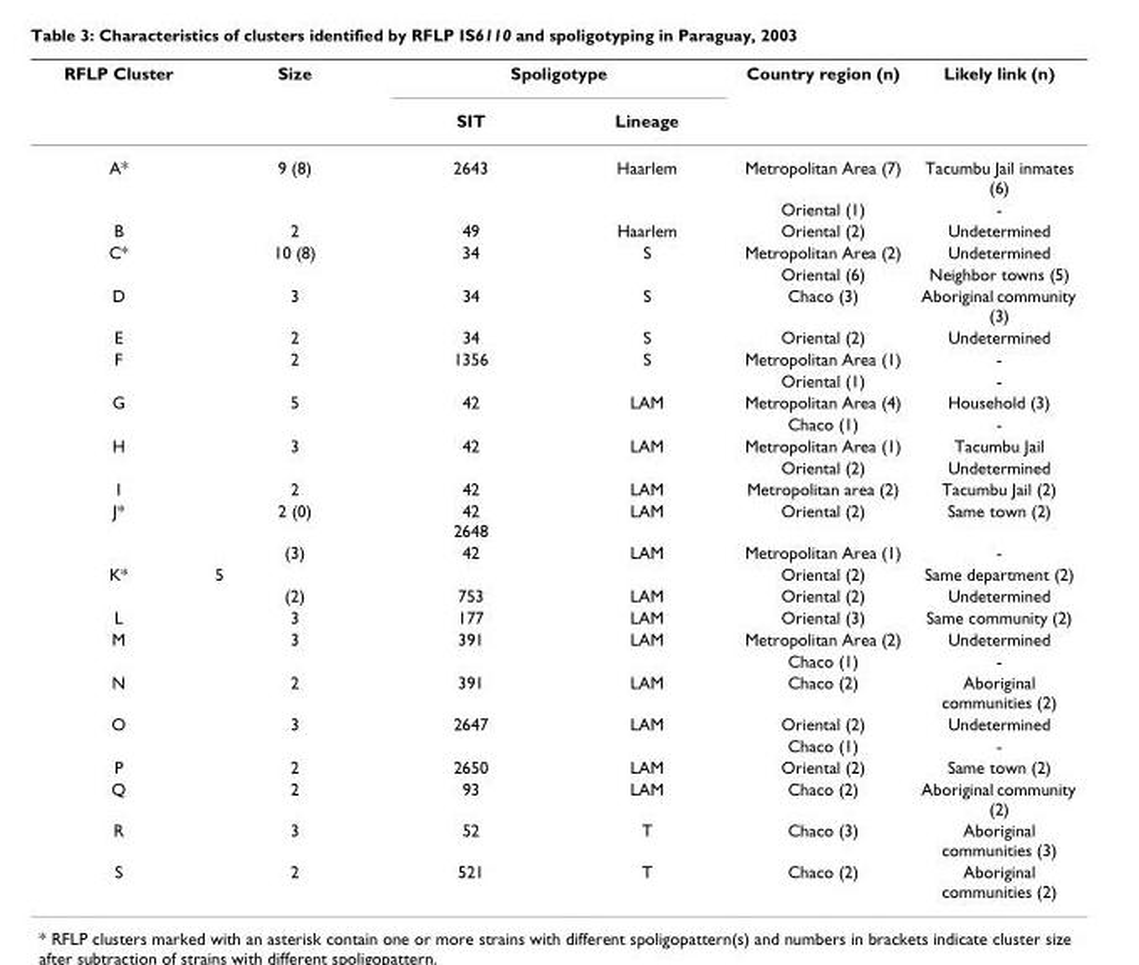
<table><thead><tr><td rowspan="2">RFLP Cluster</td><td rowspan="2">Size</td><td colspan="2">Spoligotype</td><td rowspan="2">Country region (n)</td><td rowspan="2">Likely link (n)</td></tr><tr><td>SIT</td><td>Lineage</td></tr></thead><tbody><tr><td rowspan="2">A*</td><td>9 (8)</td><td>2643</td><td>Haarlem</td><td>Metropolitan Area (7)</td><td>Tacumbu Jail inmates (6)</td></tr><tr><td></td><td></td><td></td><td>Oriental (1)</td><td>-</td></tr><tr><td>B</td><td>2</td><td>49</td><td>Haarlem</td><td>Oriental (2)</td><td>Undetermined</td></tr><tr><td rowspan="2">C*</td><td>10 (8)</td><td>34</td><td>S</td><td>Metropolitan Area (2)</td><td>Undetermined</td></tr><tr><td></td><td></td><td></td><td>Oriental (6)</td><td>Neighbor towns (5)</td></tr><tr><td>D</td><td>3</td><td>34</td><td>S</td><td>Chaco (3)</td><td>Aboriginal community (3)</td></tr><tr><td>E</td><td>2</td><td>34</td><td>S</td><td>Oriental (2)</td><td>Undetermined</td></tr><tr><td rowspan="2">F</td><td>2</td><td>1356</td><td>S</td><td>Metropolitan Area (1)</td><td>-</td></tr><tr><td></td><td></td><td></td><td>Oriental (1)</td><td>-</td></tr><tr><td rowspan="2">G</td><td>5</td><td>42</td><td>LAM</td><td>Metropolitan Area (4)</td><td>Household (3)</td></tr><tr><td></td><td></td><td></td><td>Chaco (1)</td><td>-</td></tr><tr><td rowspan="2">H</td><td>3</td><td>42</td><td>LAM</td><td>Metropolitan Area (1)</td><td>Tacumbu Jail</td></tr><tr><td></td><td></td><td></td><td>Oriental (2)</td><td>Undetermined</td></tr><tr><td>I</td><td>2</td><td>42</td><td>LAM</td><td>Metropolitan area (2)</td><td>Tacumbu Jail (2)</td></tr><tr><td rowspan="2">J*</td><td>2 (0)</td><td>42 2648</td><td>LAM</td><td>Oriental (2)</td><td>Same town (2)</td></tr><tr><td>(3)</td><td>42</td><td>LAM</td><td>Metropolitan Area (1)</td><td>-</td></tr><tr><td rowspan="2">K*</td><td>5</td><td></td><td></td><td>Oriental (2)</td><td>Same department (2)</td></tr><tr><td>(2)</td><td>753</td><td>LAM</td><td>Oriental (2)</td><td>Undetermined</td></tr><tr><td>L</td><td>3</td><td>177</td><td>LAM</td><td>Oriental (3)</td><td>Same community (2)</td></tr><tr><td rowspan="2">M</td><td>3</td><td>391</td><td>LAM</td><td>Metropolitan Area (2)</td><td>Undetermined</td></tr><tr><td></td><td></td><td></td><td>Chaco (1)</td><td>-</td></tr><tr><td>N</td><td>2</td><td>391</td><td>LAM</td><td>Chaco (2)</td><td>Aboriginal communities (2)</td></tr><tr><td rowspan="2">O</td><td>3</td><td>2647</td><td>LAM</td><td>Oriental (2)</td><td>Undetermined</td></tr><tr><td></td><td></td><td></td><td>Chaco (1)</td><td>-</td></tr><tr><td>P</td><td>2</td><td>2650</td><td>LAM</td><td>Oriental (2)</td><td>Same town (2)</td></tr><tr><td>Q</td><td>2</td><td>93</td><td>LAM</td><td>Chaco (2)</td><td>Aboriginal community (2)</td></tr><tr><td>R</td><td>3</td><td>52</td><td>T</td><td>Chaco (3)</td><td>Aboriginal communities (3)</td></tr><tr><td>S</td><td>2</td><td>521</td><td>T</td><td>Chaco (2)</td><td>Aboriginal communities (2)</td></tr></tbody></table>